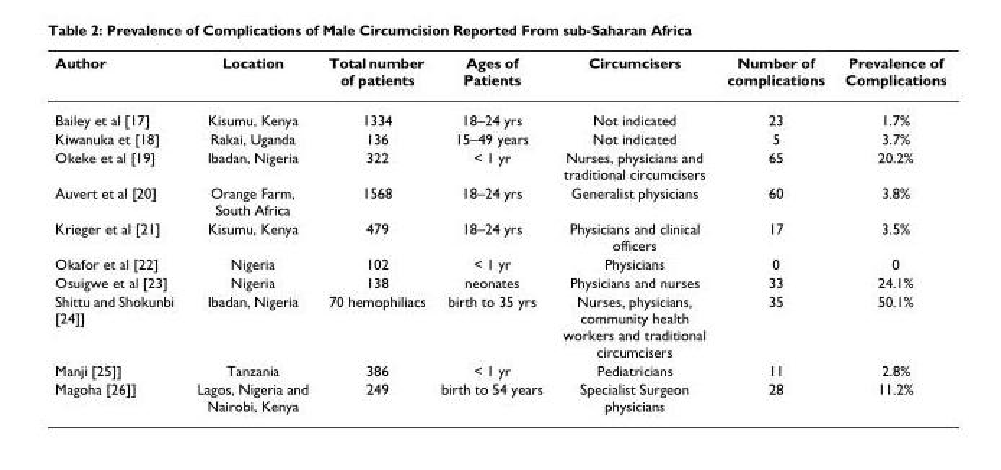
<table><thead><tr><td>Author</td><td>Location</td><td>Total number of patients</td><td>Ages of Patients</td><td>Circumcisers</td><td>Number of complications</td><td>Prevalence of Complications</td></tr></thead><tbody><tr><td>Bailey et al [17]</td><td>Kisumu, Kenya</td><td>1334</td><td>18–24 yrs</td><td>Not indicated</td><td>23</td><td>1.7%</td></tr><tr><td>Kiwanuka et [18]</td><td>Rakai, Uganda</td><td>136</td><td>15–49 years</td><td>Not indicated</td><td>5</td><td>3.7%</td></tr><tr><td>Okeke et al [19]</td><td>Ibadan, Nigeria</td><td>322</td><td>&lt; 1 yr</td><td>Nurses, physicians and traditional circumcisers</td><td>65</td><td>20.2%</td></tr><tr><td>Auvert et al [20]</td><td>Orange Farm, South Africa</td><td>1568</td><td>18–24 yrs</td><td>Generalist physicians</td><td>60</td><td>3.8%</td></tr><tr><td>Krieger et al [21]</td><td>Kisumu, Kenya</td><td>479</td><td>18–24 yrs</td><td>Physicians and clinical officers</td><td>17</td><td>3.5%</td></tr><tr><td>Okafor et al [22]</td><td>Nigeria</td><td>102</td><td>&lt; 1 yr</td><td>Physicians</td><td>0</td><td>0</td></tr><tr><td>Osuigwe et al [23]</td><td>Nigeria</td><td>138</td><td>neonates</td><td>Physicians and nurses</td><td>33</td><td>24.1%</td></tr><tr><td>Shittu and Shokunbi [24]]</td><td>Ibadan, Nigeria</td><td>70 hemophiliacs</td><td>birth to 35 yrs</td><td>Nurses, physicians, community health workers and traditional circumcisers</td><td>35</td><td>50.1%</td></tr><tr><td>Manji [25]]</td><td>Tanzania</td><td>386</td><td>&lt; 1 yr</td><td>Pediatricians</td><td>11</td><td>2.8%</td></tr><tr><td>Magoha [26]]</td><td>Lagos, Nigeria and Nairobi, Kenya</td><td>249</td><td>birth to 54 years</td><td>Specialist Surgeon physicians</td><td>28</td><td>11.2%</td></tr></tbody></table>